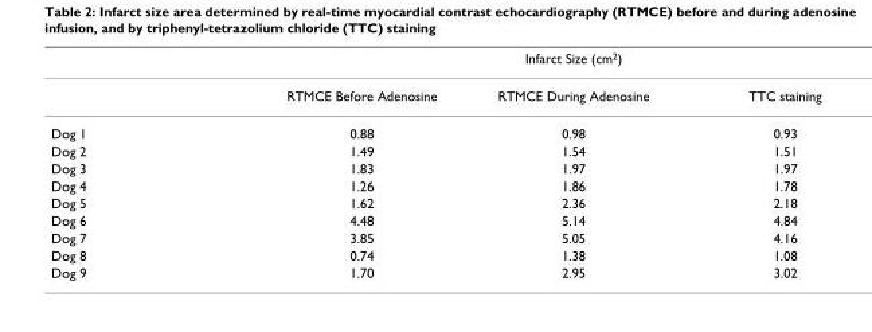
<table><thead><tr><td rowspan="2"></td><td colspan="3">Infarct Size (cm<sup>2</sup>)</td></tr><tr><td>RTMCE Before Adenosine</td><td>RTMCE During Adenosine</td><td>TTC staining</td></tr></thead><tbody><tr><td>Dog 1</td><td>0.88</td><td>0.98</td><td>0.93</td></tr><tr><td>Dog 2</td><td>1.49</td><td>1.54</td><td>1.51</td></tr><tr><td>Dog 3</td><td>1.83</td><td>1.97</td><td>1.97</td></tr><tr><td>Dog 4</td><td>1.26</td><td>1.86</td><td>1.78</td></tr><tr><td>Dog 5</td><td>1.62</td><td>2.36</td><td>2.18</td></tr><tr><td>Dog 6</td><td>4.48</td><td>5.14</td><td>4.84</td></tr><tr><td>Dog 7</td><td>3.85</td><td>5.05</td><td>4.16</td></tr><tr><td>Dog 8</td><td>0.74</td><td>1.38</td><td>1.08</td></tr><tr><td>Dog 9</td><td>1.70</td><td>2.95</td><td>3.02</td></tr></tbody></table>